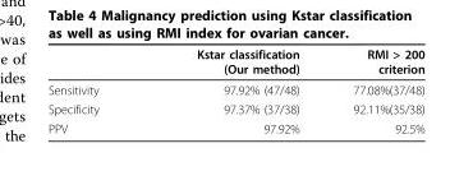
<table><thead><tr><td></td><td>Kstar classification (Our method)</td><td>RMI &gt; 200 criterion</td></tr></thead><tbody><tr><td>Sensitivity</td><td>97.92% (47/48)</td><td>77.08%(37/48)</td></tr><tr><td>Specificity</td><td>97.37% (37/38)</td><td>92.11%(35/38)</td></tr><tr><td>PPV</td><td>97.92%</td><td>92.5%</td></tr></tbody></table>